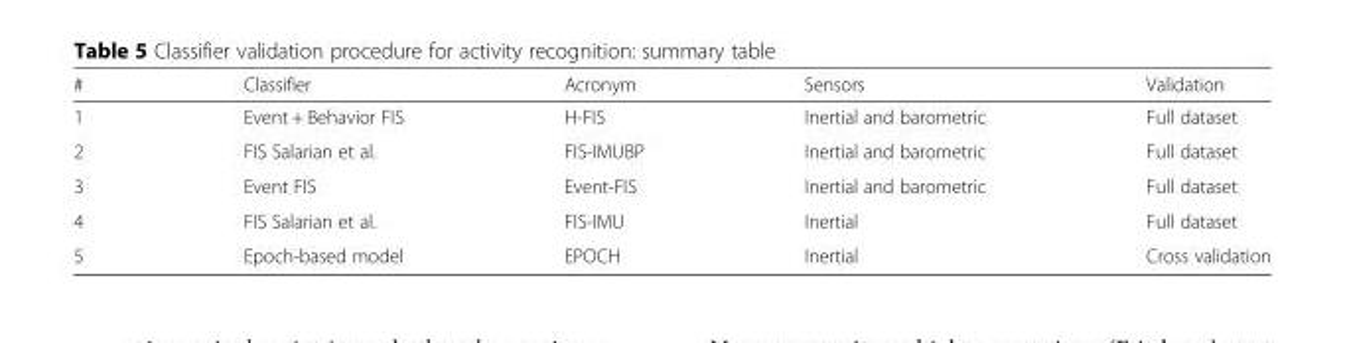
<table><thead><tr><td>#</td><td>Classifier</td><td>Acronym</td><td>Sensors</td><td>Validation</td></tr></thead><tbody><tr><td>1</td><td>Event + Behavior FIS</td><td>H-FIS</td><td>Inertial and barometric</td><td>Full dataset</td></tr><tr><td>2</td><td>FIS Salarian et al.</td><td>FIS-IMUBP</td><td>Inertial and barometric</td><td>Full dataset</td></tr><tr><td>3</td><td>Event FIS</td><td>Event-FIS</td><td>Inertial and barometric</td><td>Full dataset</td></tr><tr><td>4</td><td>FIS Salarian et al.</td><td>FIS-IMU</td><td>Inertial</td><td>Full dataset</td></tr><tr><td>5</td><td>Epoch-based model</td><td>EPOCH</td><td>Inertial</td><td>Cross validation</td></tr></tbody></table>